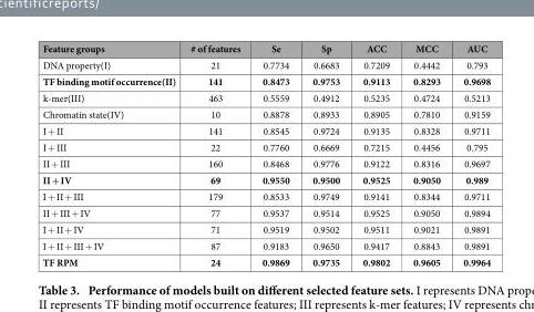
<table><thead><tr><td>Feature groups</td><td># of features</td><td>Se</td><td>Sp</td><td>ACC</td><td>MCC</td><td>AUC</td></tr></thead><tbody><tr><td>DNA property(I)</td><td>21</td><td>0.7734</td><td>0.6683</td><td>0.7209</td><td>0.4442</td><td>0.793</td></tr><tr><td>TF binding motif occurrence(II)</td><td>141</td><td>0.8473</td><td>0.9753</td><td>0.9113</td><td>0.8293</td><td>0.9698</td></tr><tr><td>k-mer(III)</td><td>463</td><td>0.5559</td><td>0.4912</td><td>0.5235</td><td>0.4724</td><td>0.5213</td></tr><tr><td>Chromatin state(IV)</td><td>10</td><td>0.8878</td><td>0.8933</td><td>0.8905</td><td>0.7810</td><td>0.9159</td></tr><tr><td>I + II</td><td>141</td><td>0.8545</td><td>0.9724</td><td>0.9135</td><td>0.8328</td><td>0.9711</td></tr><tr><td>I + III</td><td>22</td><td>0.7760</td><td>0.6669</td><td>0.7215</td><td>0.4456</td><td>0.795</td></tr><tr><td>II + III</td><td>160</td><td>0.8468</td><td>0.9776</td><td>0.9122</td><td>0.8316</td><td>0.9697</td></tr><tr><td>II + IV</td><td>69</td><td>0.9550</td><td>0.9500</td><td>0.9525</td><td>0.9050</td><td>0.989</td></tr><tr><td>I + II + III</td><td>179</td><td>0.8533</td><td>0.9749</td><td>0.9141</td><td>0.8344</td><td>0.9711</td></tr><tr><td>II + III + IV</td><td>77</td><td>0.9537</td><td>0.9514</td><td>0.9525</td><td>0.9050</td><td>0.9894</td></tr><tr><td>I + II + IV</td><td>71</td><td>0.9519</td><td>0.9502</td><td>0.9511</td><td>0.9021</td><td>0.9891</td></tr><tr><td>I + II + III + IV</td><td>87</td><td>0.9183</td><td>0.9650</td><td>0.9417</td><td>0.8843</td><td>0.9891</td></tr><tr><td>TF RPM</td><td>24</td><td>0.9869</td><td>0.9735</td><td>0.9802</td><td>0.9605</td><td>0.9964</td></tr></tbody></table>